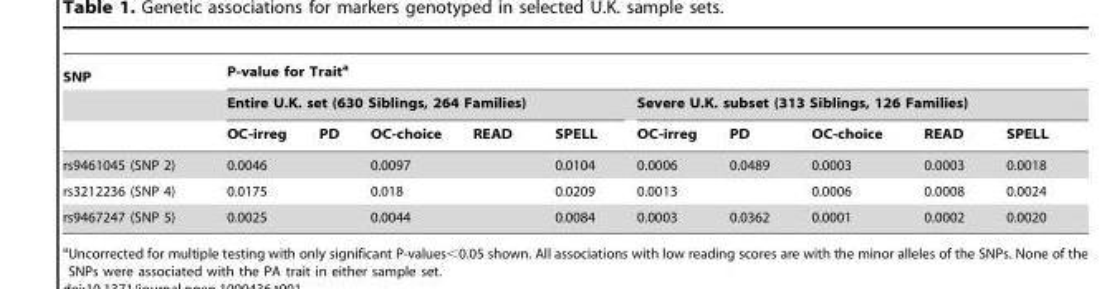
<table><thead><tr><td rowspan="3">SNP</td><td colspan="10">P-value for Trait<sup>a</sup></td></tr><tr><td colspan="5">Entire U.K. set (630 Siblings, 264 Families)</td><td colspan="5">Severe U.K. subset (313 Siblings, 126 Families)</td></tr><tr><td>OC-irreg</td><td>PD</td><td>OC-choice</td><td>READ</td><td>SPELL</td><td>OC-irreg</td><td>PD</td><td>OC-choice</td><td>READ</td><td>SPELL</td></tr></thead><tbody><tr><td>rs9461045 (SNP 2)</td><td>0.0046</td><td></td><td>0.0097</td><td></td><td>0.0104</td><td>0.0006</td><td>0.0489</td><td>0.0003</td><td>0.0003</td><td>0.0018</td></tr><tr><td>rs3212236 (SNP 4)</td><td>0.0175</td><td></td><td>0.018</td><td></td><td>0.0209</td><td>0.0013</td><td></td><td>0.0006</td><td>0.0008</td><td>0.0024</td></tr><tr><td>rs9467247 (SNP 5)</td><td>0.0025</td><td></td><td>0.0044</td><td></td><td>0.0084</td><td>0.0003</td><td>0.0362</td><td>0.0001</td><td>0.0002</td><td>0.0020</td></tr></tbody></table>